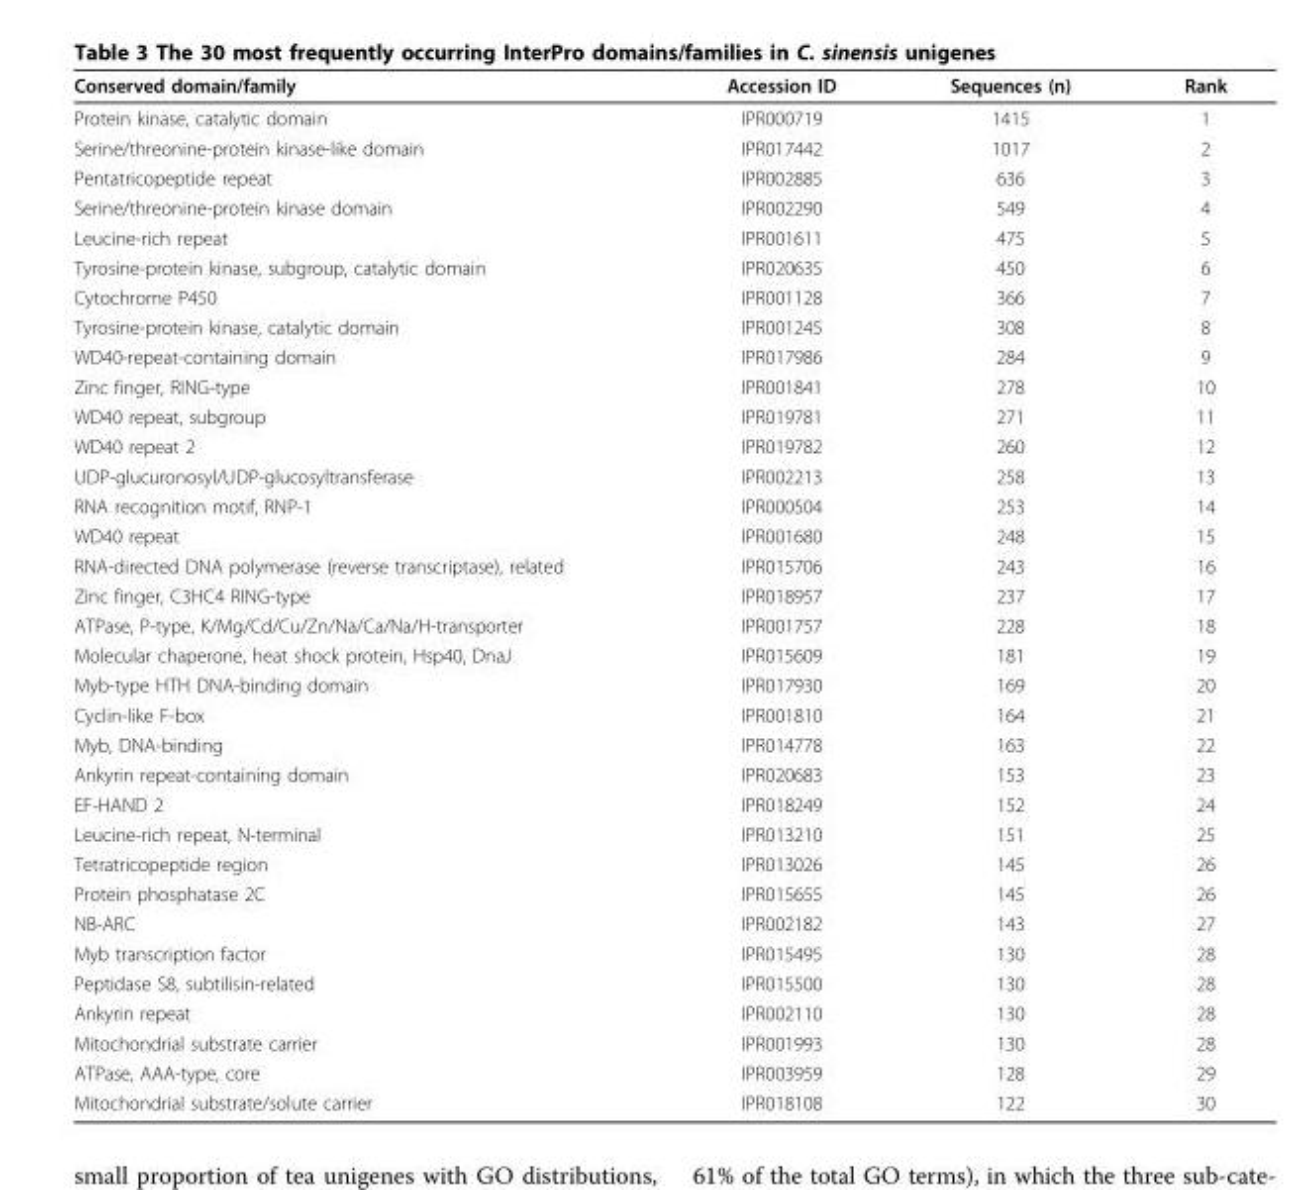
<table><thead><tr><td>Conserved domain/family</td><td>Accession ID</td><td>Sequences (n)</td><td>Rank</td></tr></thead><tbody><tr><td>Protein kinase, catalytic domain</td><td>IPR000719</td><td>1415</td><td>1</td></tr><tr><td>Serine/threonine-protein kinase-like domain</td><td>IPR017442</td><td>1017</td><td>2</td></tr><tr><td>Pentatricopeptide repeat</td><td>IPR002885</td><td>636</td><td>3</td></tr><tr><td>Serine/threonine-protein kinase domain</td><td>IPR002290</td><td>549</td><td>4</td></tr><tr><td>Leucine-rich repeat</td><td>IPR001611</td><td>475</td><td>5</td></tr><tr><td>Tyrosine-protein kinase, subgroup, catalytic domain</td><td>IPR020635</td><td>450</td><td>6</td></tr><tr><td>Cytochrome P450</td><td>IPR001128</td><td>366</td><td>7</td></tr><tr><td>Tyrosine-protein kinase, catalytic domain</td><td>IPR001245</td><td>308</td><td>8</td></tr><tr><td>WD40-repeat-containing domain</td><td>IPR017986</td><td>284</td><td>9</td></tr><tr><td>Zinc finger, RING-type</td><td>IPR001841</td><td>278</td><td>10</td></tr><tr><td>WD40 repeat, subgroup</td><td>IPR019781</td><td>271</td><td>11</td></tr><tr><td>WD40 repeat 2</td><td>IPR019782</td><td>260</td><td>12</td></tr><tr><td>UDP-glucuronosyl/UDP-glucosyltransferase</td><td>IPR002213</td><td>258</td><td>13</td></tr><tr><td>RNA recognition motif, RNP-1</td><td>IPR000504</td><td>253</td><td>14</td></tr><tr><td>WD40 repeat</td><td>IPR001680</td><td>248</td><td>15</td></tr><tr><td>RNA-directed DNA polymerase (reverse transcriptase), related</td><td>IPR015706</td><td>243</td><td>16</td></tr><tr><td>Zinc finger, C3HC4 RING-type</td><td>IPR018957</td><td>237</td><td>17</td></tr><tr><td>ATPase, P-type, K/Mg/Cd/Cu/Zn/Na/Ca/Na/H-transporter</td><td>IPR001757</td><td>228</td><td>18</td></tr><tr><td>Molecular chaperone, heat shock protein, Hsp40, DnaJ</td><td>IPR015609</td><td>181</td><td>19</td></tr><tr><td>Myb-type HTH DNA-binding domain</td><td>IPR017930</td><td>169</td><td>20</td></tr><tr><td>Cyclin-like F-box</td><td>IPR001810</td><td>164</td><td>21</td></tr><tr><td>Myb, DNA-binding</td><td>IPR014778</td><td>163</td><td>22</td></tr><tr><td>Ankyrin repeat-containing domain</td><td>IPR020683</td><td>153</td><td>23</td></tr><tr><td>EF-HAND 2</td><td>IPR018249</td><td>152</td><td>24</td></tr><tr><td>Leucine-rich repeat, N-terminal</td><td>IPR013210</td><td>151</td><td>25</td></tr><tr><td>Tetratricopeptide region</td><td>IPR013026</td><td>145</td><td>26</td></tr><tr><td>Protein phosphatase 2C</td><td>IPR015655</td><td>145</td><td>26</td></tr><tr><td>NB-ARC</td><td>IPR002182</td><td>143</td><td>27</td></tr><tr><td>Myb transcription factor</td><td>IPR015495</td><td>130</td><td>28</td></tr><tr><td>Peptidase S8, subtilisin-related</td><td>IPR015500</td><td>130</td><td>28</td></tr><tr><td>Ankyrin repeat</td><td>IPR002110</td><td>130</td><td>28</td></tr><tr><td>Mitochondrial substrate carrier</td><td>IPR001993</td><td>130</td><td>28</td></tr><tr><td>ATPase, AAA-type, core</td><td>IPR003959</td><td>128</td><td>29</td></tr><tr><td>Mitochondrial substrate/solute carrier</td><td>IPR018108</td><td>122</td><td>30</td></tr></tbody></table>